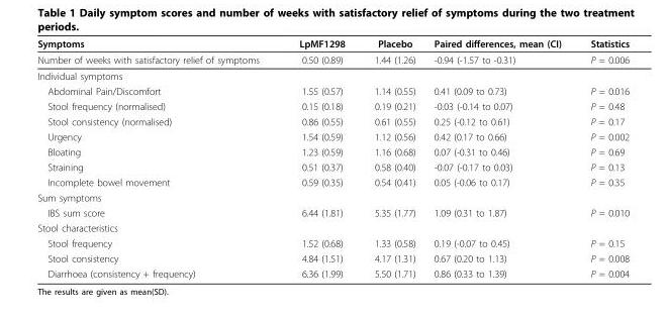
<table><thead><tr><td>Symptoms</td><td>LpMF1298</td><td>Placebo</td><td>Paired differences, mean (CI)</td><td>Statistics</td></tr></thead><tbody><tr><td>Number of weeks with satisfactory relief of symptoms</td><td>0.50 (0.89)</td><td>1.44 (1.26)</td><td>-0.94 (-1.57 to -0.31)</td><td>P = 0.006</td></tr><tr><td colspan="5">Individual symptoms</td></tr><tr><td>Abdominal Pain/Discomfort</td><td>1.55 (0.57)</td><td>1.14 (0.55)</td><td>0.41 (0.09 to 0.73)</td><td>P = 0.016</td></tr><tr><td>Stool frequency (normalised)</td><td>0.15 (0.18)</td><td>0.19 (0.21)</td><td>-0.03 (-0.14 to 0.07)</td><td>P = 0.48</td></tr><tr><td>Stool consistency (normalised)</td><td>0.86 (0.55)</td><td>0.61 (0.55)</td><td>0.25 (-0.12 to 0.61)</td><td>P = 0.17</td></tr><tr><td>Urgency</td><td>1.54 (0.59)</td><td>1.12 (0.56)</td><td>0.42 (0.17 to 0.66)</td><td>P = 0.002</td></tr><tr><td>Bloating</td><td>1.23 (0.59)</td><td>1.16 (0.68)</td><td>0.07 (-0.31 to 0.46)</td><td>P = 0.69</td></tr><tr><td>Straining</td><td>0.51 (0.37)</td><td>0.58 (0.40)</td><td>-0.07 (-0.17 to 0.03)</td><td>P = 0.13</td></tr><tr><td>Incomplete bowel movement</td><td>0.59 (0.35)</td><td>0.54 (0.41)</td><td>0.05 (-0.06 to 0.17)</td><td>P = 0.35</td></tr><tr><td colspan="5">Sum symptoms</td></tr><tr><td>IBS sum score</td><td>6.44 (1.81)</td><td>5.35 (1.77)</td><td>1.09 (0.31 to 1.87)</td><td>P = 0.010</td></tr><tr><td colspan="5">Stool characteristics</td></tr><tr><td>Stool frequency</td><td>1.52 (0.68)</td><td>1.33 (0.58)</td><td>0.19 (-0.07 to 0.45)</td><td>P = 0.15</td></tr><tr><td>Stool consistency</td><td>4.84 (1.51)</td><td>4.17 (1.31)</td><td>0.67 (0.20 to 1.13)</td><td>P = 0.008</td></tr><tr><td>Diarrhoea (consistency + frequency)</td><td>6.36 (1.99)</td><td>5.50 (1.71)</td><td>0.86 (0.33 to 1.39)</td><td>P = 0.004</td></tr></tbody></table>